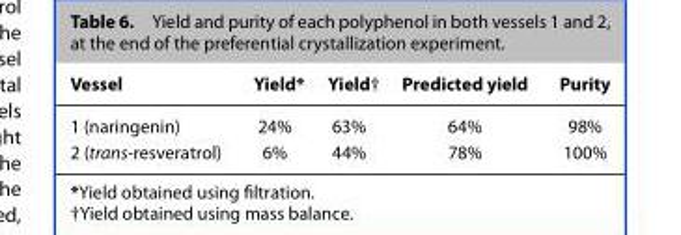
<table><thead><tr><td>Vessel</td><td>Yield*</td><td>Yield†</td><td>Predicted yield</td><td>Purity</td></tr></thead><tbody><tr><td>1 (naringenin)</td><td>24%</td><td>63%</td><td>64%</td><td>98%</td></tr><tr><td>2 (trans-resveratrol)</td><td>6%</td><td>44%</td><td>78%</td><td>100%</td></tr></tbody></table>